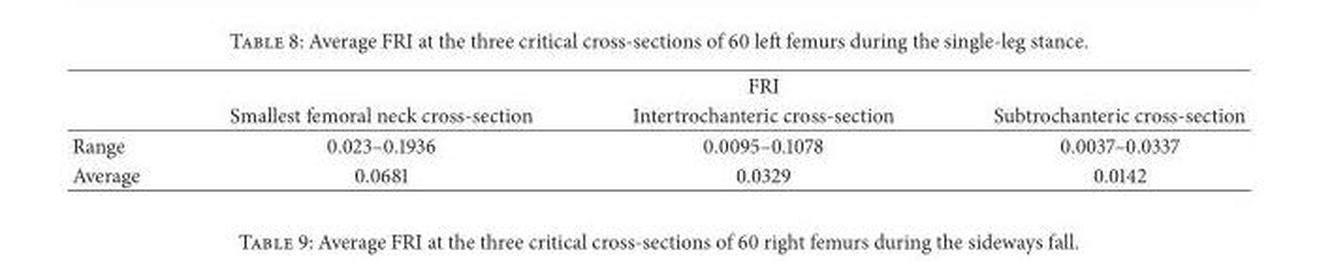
<table><thead><tr><td rowspan="2"></td><td rowspan="2">Smallest femoral neck cross-section</td><td rowspan="2">FRI Intertrochanteric cross-section</td><td rowspan="2">Subtrochanteric cross-section</td></tr><tr></tr></thead><tbody><tr><td>Range</td><td>0.023–0.1936</td><td>0.0095–0.1078</td><td>0.0037–0.0337</td></tr><tr><td>Average</td><td>0.0681</td><td>0.0329</td><td>0.0142</td></tr></tbody></table>